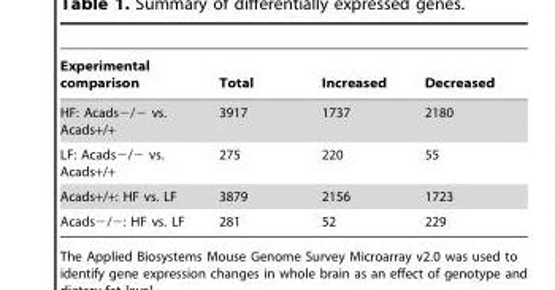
<table><thead><tr><td>Experimental comparison</td><td>Total</td><td>Increased</td><td>Decreased</td></tr></thead><tbody><tr><td>HF: Acads−/− vs. Acads+/+</td><td>3917</td><td>1737</td><td>2180</td></tr><tr><td>LF: Acads−/− vs. Acads+/+</td><td>275</td><td>220</td><td>55</td></tr><tr><td>Acads+/+: HF vs. LF</td><td>3879</td><td>2156</td><td>1723</td></tr><tr><td>Acads−/−: HF vs. LF</td><td>281</td><td>52</td><td>229</td></tr></tbody></table>